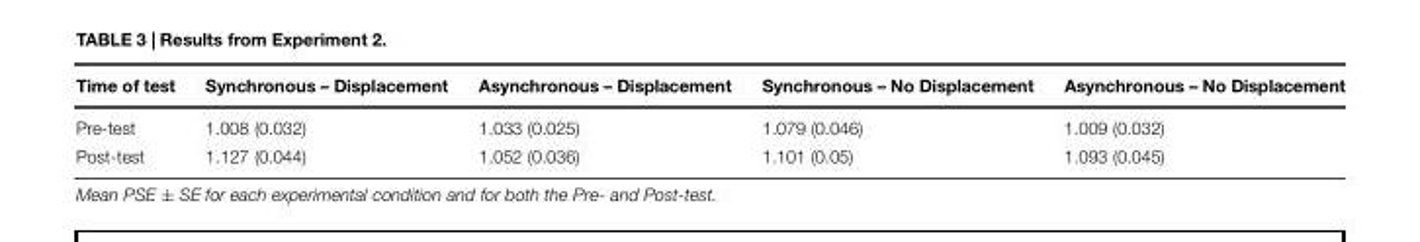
<table><thead><tr><td>Time of test</td><td>Synchronous – Displacement</td><td>Asynchronous – Displacement</td><td>Synchronous – No Displacement</td><td>Asynchronous – No Displacement</td></tr></thead><tbody><tr><td>Pre-test</td><td>1.008 (0.032)</td><td>1.033 (0.025)</td><td>1.079 (0.046)</td><td>1.009 (0.032)</td></tr><tr><td>Post-test</td><td>1.127 (0.044)</td><td>1.052 (0.036)</td><td>1.101 (0.05)</td><td>1.093 (0.045)</td></tr></tbody></table>